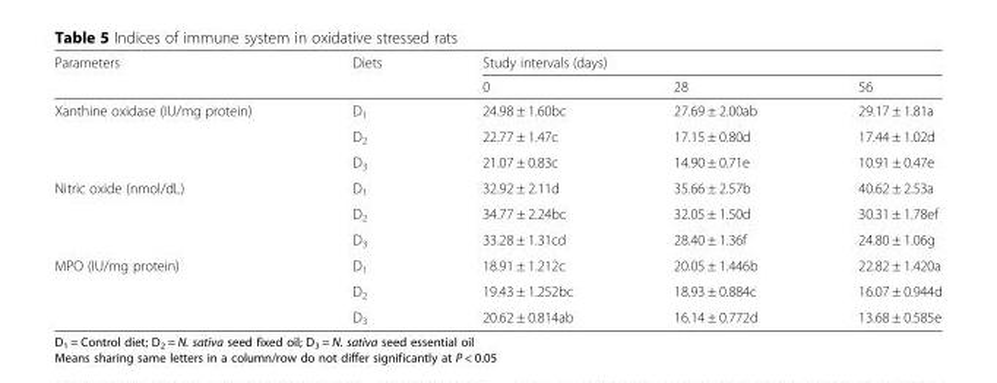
<table><thead><tr><td rowspan="2">Parameters</td><td rowspan="2">Diets</td><td colspan="3">Study intervals (days)</td></tr><tr><td>0</td><td>28</td><td>56</td></tr></thead><tbody><tr><td rowspan="3">Xanthine oxidase (IU/mg protein)</td><td>D<sub>1</sub></td><td>24.98 ± 1.60bc</td><td>27.69 ± 2.00ab</td><td>29.17 ± 1.81a</td></tr><tr><td>D<sub>2</sub></td><td>22.77 ± 1.47c</td><td>17.15 ± 0.80d</td><td>17.44 ± 1.02d</td></tr><tr><td>D<sub>3</sub></td><td>21.07 ± 0.83c</td><td>14.90 ± 0.71e</td><td>10.91 ± 0.47e</td></tr><tr><td rowspan="3">Nitric oxide (nmol/dL)</td><td>D<sub>1</sub></td><td>32.92 ± 2.11d</td><td>35.66 ± 2.57b</td><td>40.62 ± 2.53a</td></tr><tr><td>D<sub>2</sub></td><td>34.77 ± 2.24bc</td><td>32.05 ± 1.50d</td><td>30.31 ± 1.78ef</td></tr><tr><td>D<sub>3</sub></td><td>33.28 ± 1.31cd</td><td>28.40 ± 1.36f</td><td>24.80 ± 1.06g</td></tr><tr><td rowspan="3">MPO (IU/mg protein)</td><td>D<sub>1</sub></td><td>18.91 ± 1.212c</td><td>20.05 ± 1.446b</td><td>22.82 ± 1.420a</td></tr><tr><td>D<sub>2</sub></td><td>19.43 ± 1.252bc</td><td>18.93 ± 0.884c</td><td>16.07 ± 0.944d</td></tr><tr><td>D<sub>3</sub></td><td>20.62 ± 0.814ab</td><td>16.14 ± 0.772d</td><td>13.68 ± 0.585e</td></tr></tbody></table>